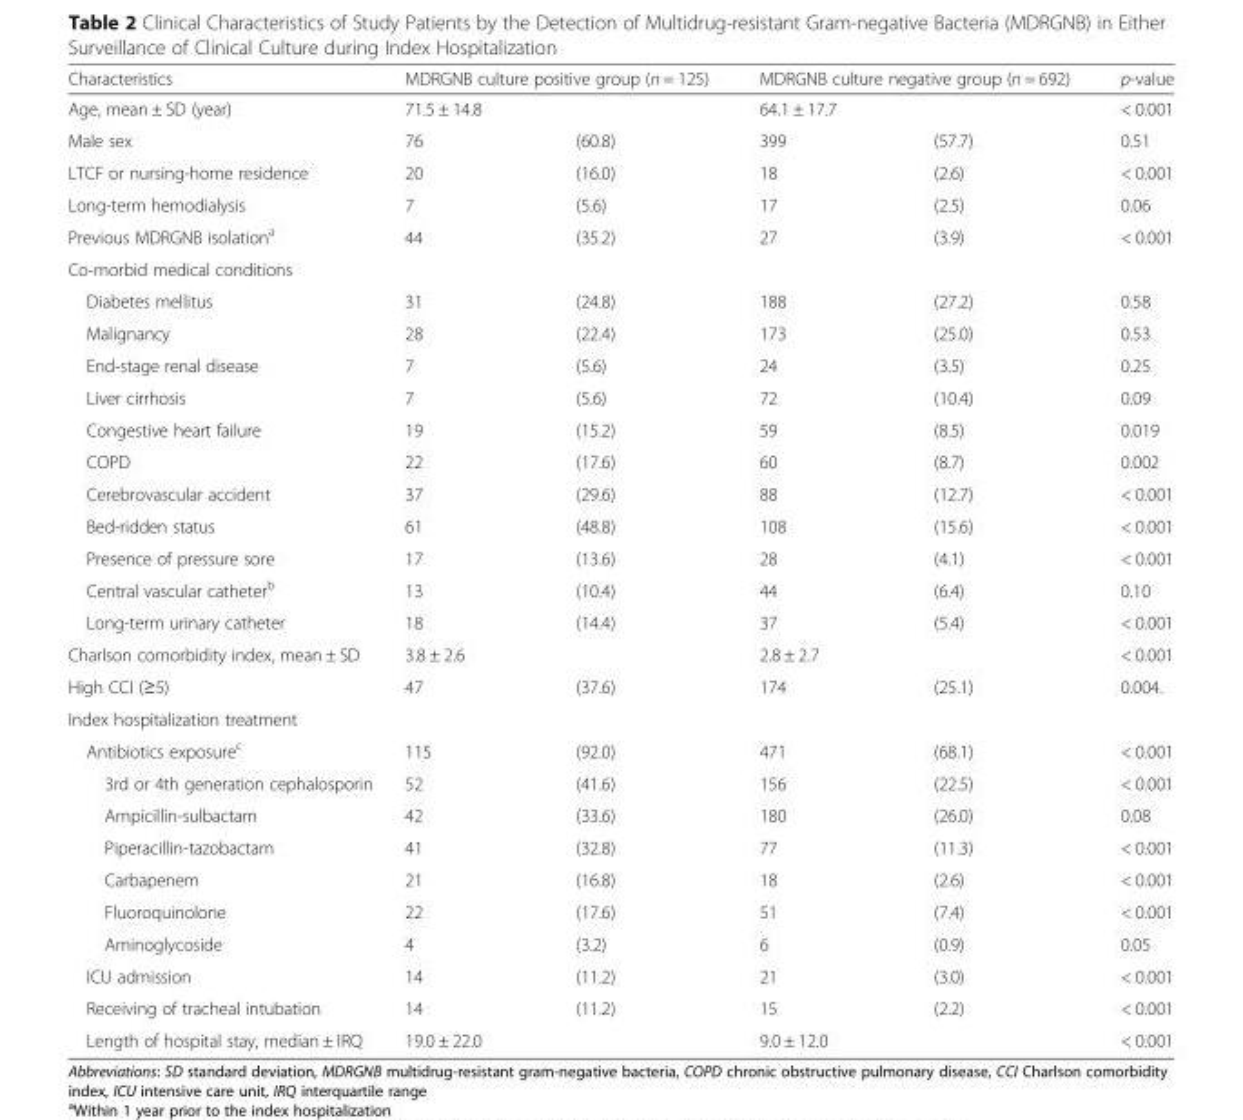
<table><thead><tr><td rowspan="3">Characteristics Age, mean ± SD (year) Male sex</td><td rowspan="2" colspan="2">MDRGNB culture positive group (n = 125) 71.5 ± 14.8</td><td rowspan="2" colspan="2">MDRGNB culture negative group (n = 692) 64.1 ± 17.7</td><td rowspan="3">p-value &lt; 0.001 0.51</td></tr><tr></tr><tr><td>76</td><td>(60.8)</td><td>399</td><td>(57.7)</td></tr></thead><tbody><tr><td>LTCF or nursing-home residence</td><td>20</td><td>(16.0)</td><td>18</td><td>(2.6)</td><td>&lt; 0.001</td></tr><tr><td>Long-term hemodialysis</td><td>7</td><td>(5.6)</td><td>17</td><td>(2.5)</td><td>0.06</td></tr><tr><td>Previous MDRGNB isolation<sup>a</sup></td><td>44</td><td>(35.2)</td><td>27</td><td>(3.9)</td><td>&lt; 0.001</td></tr><tr><td colspan="6">Co-morbid medical conditions</td></tr><tr><td>Diabetes mellitus</td><td>31</td><td>(24.8)</td><td>188</td><td>(27.2)</td><td>0.58</td></tr><tr><td>Malignancy</td><td>28</td><td>(22.4)</td><td>173</td><td>(25.0)</td><td>0.53</td></tr><tr><td>End-stage renal disease</td><td>7</td><td>(5.6)</td><td>24</td><td>(3.5)</td><td>0.25</td></tr><tr><td>Liver cirrhosis</td><td>7</td><td>(5.6)</td><td>72</td><td>(10.4)</td><td>0.09</td></tr><tr><td>Congestive heart failure</td><td>19</td><td>(15.2)</td><td>59</td><td>(8.5)</td><td>0.019</td></tr><tr><td>COPD</td><td>22</td><td>(17.6)</td><td>60</td><td>(8.7)</td><td>0.002</td></tr><tr><td>Cerebrovascular accident</td><td>37</td><td>(29.6)</td><td>88</td><td>(12.7)</td><td>&lt; 0.001</td></tr><tr><td>Bed-ridden status</td><td>61</td><td>(48.8)</td><td>108</td><td>(15.6)</td><td>&lt; 0.001</td></tr><tr><td>Presence of pressure sore</td><td>17</td><td>(13.6)</td><td>28</td><td>(4.1)</td><td>&lt; 0.001</td></tr><tr><td>Central vascular catheter<sup>b</sup></td><td>13</td><td>(10.4)</td><td>44</td><td>(6.4)</td><td>0.10</td></tr><tr><td>Long-term urinary catheter</td><td>18</td><td>(14.4)</td><td>37</td><td>(5.4)</td><td>&lt; 0.001</td></tr><tr><td>Charlson comorbidity index, mean ± SD</td><td colspan="2">3.8 ± 2.6</td><td colspan="2">2.8 ± 2.7</td><td>&lt; 0.001</td></tr><tr><td>High CCI (≥5)</td><td>47</td><td>(37.6)</td><td>174</td><td>(25.1)</td><td>0.004.</td></tr><tr><td colspan="6">Index hospitalization treatment</td></tr><tr><td>Antibiotics exposure<sup>c</sup></td><td>115</td><td>(92.0)</td><td>471</td><td>(68.1)</td><td>&lt; 0.001</td></tr><tr><td>3rd or 4th generation cephalosporin</td><td>52</td><td>(41.6)</td><td>156</td><td>(22.5)</td><td>&lt; 0.001</td></tr><tr><td>Ampicillin-sulbactam</td><td>42</td><td>(33.6)</td><td>180</td><td>(26.0)</td><td>0.08</td></tr><tr><td>Piperacillin-tazobactam</td><td>41</td><td>(32.8)</td><td>77</td><td>(11.3)</td><td>&lt; 0.001</td></tr><tr><td>Carbapenem</td><td>21</td><td>(16.8)</td><td>18</td><td>(2.6)</td><td>&lt; 0.001</td></tr><tr><td>Fluoroquinolone</td><td>22</td><td>(17.6)</td><td>51</td><td>(7.4)</td><td>&lt; 0.001</td></tr><tr><td>Aminoglycoside</td><td>4</td><td>(3.2)</td><td>6</td><td>(0.9)</td><td>0.05</td></tr><tr><td>ICU admission</td><td>14</td><td>(11.2)</td><td>21</td><td>(3.0)</td><td>&lt; 0.001</td></tr><tr><td>Receiving of tracheal intubation</td><td>14</td><td>(11.2)</td><td>15</td><td>(2.2)</td><td>&lt; 0.001</td></tr><tr><td>Length of hospital stay, median ± IRQ</td><td colspan="2">19.0 ± 22.0</td><td colspan="2">9.0 ± 12.0</td><td>&lt; 0.001</td></tr></tbody></table>